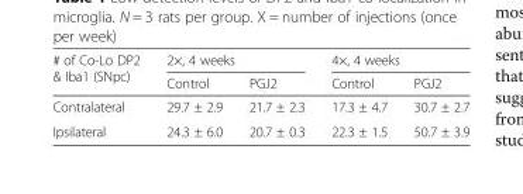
<table><thead><tr><td rowspan="2"># of Co-Lo DP2 &amp; Iba1 (SNpc)</td><td colspan="2">2×, 4 weeks</td><td colspan="2">4×, 4 weeks</td></tr><tr><td>Control</td><td>PGJ2</td><td>Control</td><td>PGJ2</td></tr></thead><tbody><tr><td>Contralateral</td><td>29.7 ± 2.9</td><td>21.7 ± 2.3</td><td>17.3 ± 4.7</td><td>30.7 ± 2.7</td></tr><tr><td>Ipsilateral</td><td>24.3 ± 6.0</td><td>20.7 ± 0.3</td><td>22.3 ± 1.5</td><td>50.7 ± 3.9</td></tr></tbody></table>